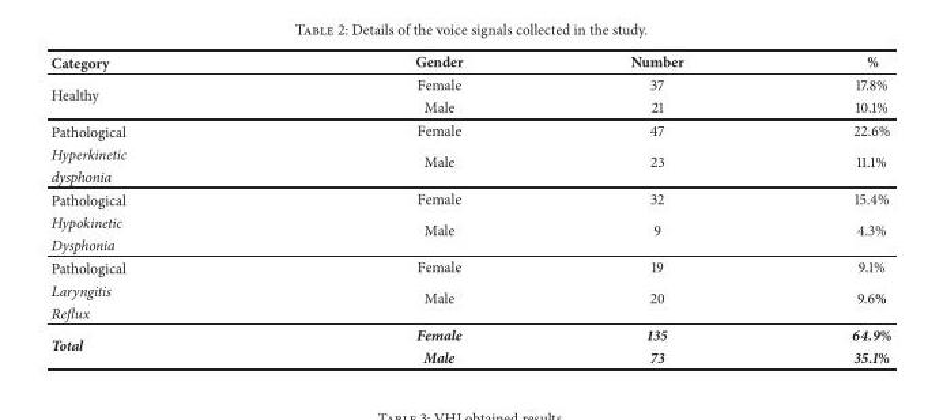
<table><thead><tr><td>Category</td><td>Gender</td><td>Number</td><td>%</td></tr></thead><tbody><tr><td rowspan="2">Healthy</td><td>Female</td><td>37</td><td>17.8%</td></tr><tr><td>Male</td><td>21</td><td>10.1%</td></tr><tr><td>Pathological</td><td>Female</td><td>47</td><td>22.6%</td></tr><tr><td>Hyperkinetic</td><td rowspan="2">Male</td><td rowspan="2">23</td><td rowspan="2">11.1%</td></tr><tr><td>dysphonia</td></tr><tr><td>Pathological</td><td>Female</td><td>32</td><td>15.4%</td></tr><tr><td>Hypokinetic</td><td rowspan="2">Male</td><td rowspan="2">9</td><td rowspan="2">4.3%</td></tr><tr><td>Dysphonia</td></tr><tr><td>Pathological</td><td>Female</td><td>19</td><td>9.1%</td></tr><tr><td>Laryngitis</td><td rowspan="2">Male</td><td rowspan="2">20</td><td rowspan="2">9.6%</td></tr><tr><td>Reflux</td></tr><tr><td rowspan="2">Total</td><td>Female</td><td>135</td><td>64.9%</td></tr><tr><td>Male</td><td>73</td><td>35.1%</td></tr></tbody></table>